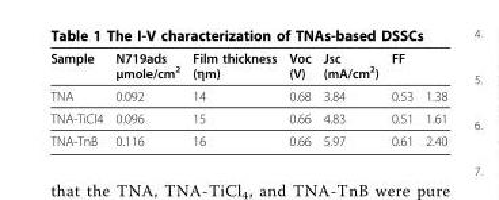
<table><thead><tr><td>Sample</td><td>N719ads μmole/cm<sup>2</sup></td><td>Film thickness (ηm)</td><td>Voc (V)</td><td>Jsc (mA/cm<sup>2</sup>)</td><td>FF</td><td></td></tr></thead><tbody><tr><td>TNA</td><td>0.092</td><td>14</td><td>0.68</td><td>3.84</td><td>0.53</td><td>1.38</td></tr><tr><td>TNA-TiCl4</td><td>0.096</td><td>15</td><td>0.66</td><td>4.83</td><td>0.51</td><td>1.61</td></tr><tr><td>TNA-TnB</td><td>0.116</td><td>16</td><td>0.66</td><td>5.97</td><td>0.61</td><td>2.40</td></tr></tbody></table>